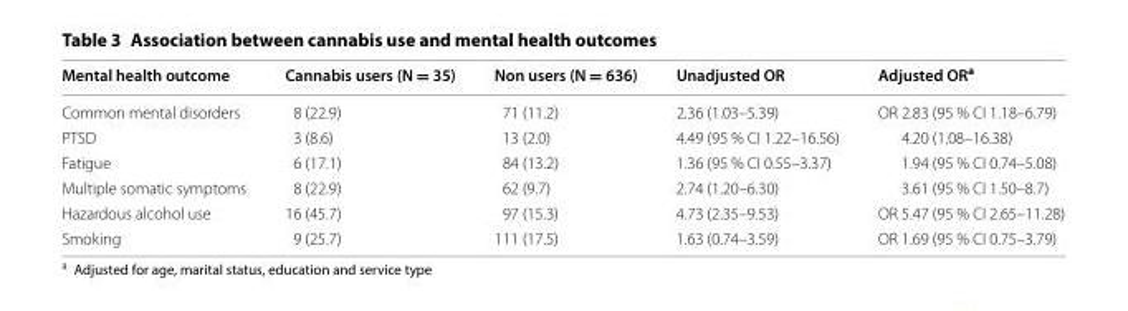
<table><thead><tr><td>Mental health outcome</td><td>Cannabis users (N = 35)</td><td>Non users (N = 636)</td><td>Unadjusted OR</td><td>Adjusted OR<sup>a</sup></td></tr></thead><tbody><tr><td>Common mental disorders</td><td>8 (22.9)</td><td>71 (11.2)</td><td>2.36 (1.03–5.39)</td><td>OR 2.83 (95 % CI 1.18–6.79)</td></tr><tr><td>PTSD</td><td>3 (8.6)</td><td>13 (2.0)</td><td>4.49 (95 % CI 1.22–16.56)</td><td>4.20 (1.08–16.38)</td></tr><tr><td>Fatigue</td><td>6 (17.1)</td><td>84 (13.2)</td><td>1.36 (95 % CI 0.55–3.37)</td><td>1.94 (95 % CI 0.74–5.08)</td></tr><tr><td>Multiple somatic symptoms</td><td>8 (22.9)</td><td>62 (9.7)</td><td>2.74 (1.20–6.30)</td><td>3.61 (95 % CI 1.50–8.7)</td></tr><tr><td>Hazardous alcohol use</td><td>16 (45.7)</td><td>97 (15.3)</td><td>4.73 (2.35–9.53)</td><td>OR 5.47 (95 % CI 2.65–11.28)</td></tr><tr><td>Smoking</td><td>9 (25.7)</td><td>111 (17.5)</td><td>1.63 (0.74–3.59)</td><td>OR 1.69 (95 % CI 0.75–3.79)</td></tr></tbody></table>